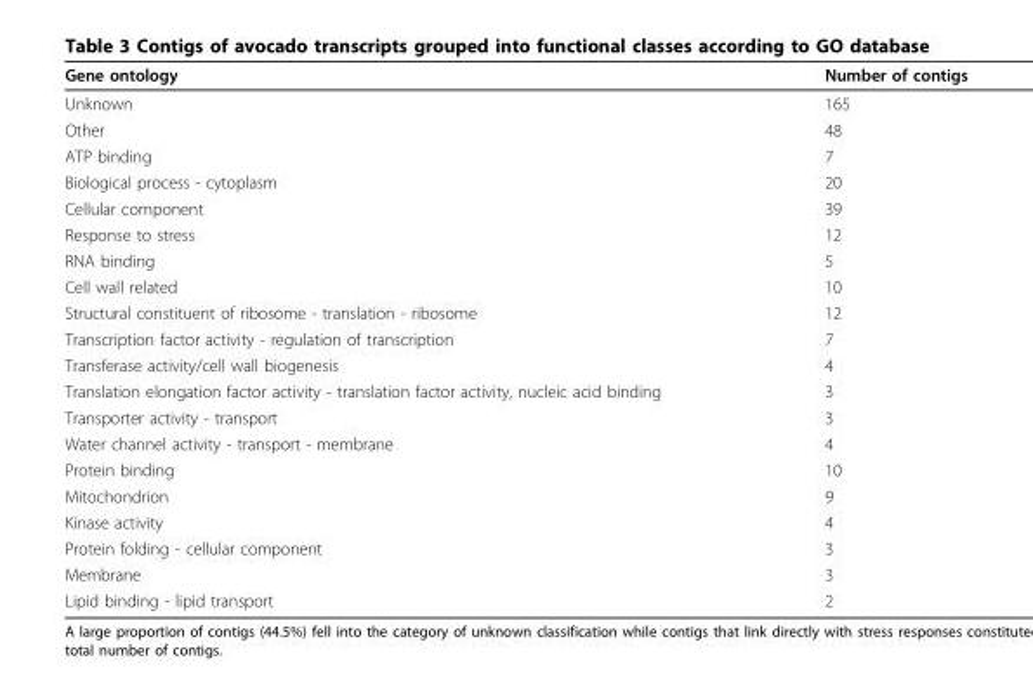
<table><thead><tr><td>Gene ontology</td><td>Number of contigs</td></tr></thead><tbody><tr><td>Unknown</td><td>165</td></tr><tr><td>Other</td><td>48</td></tr><tr><td>ATP binding</td><td>7</td></tr><tr><td>Biological process - cytoplasm</td><td>20</td></tr><tr><td>Cellular component</td><td>39</td></tr><tr><td>Response to stress</td><td>12</td></tr><tr><td>RNA binding</td><td>5</td></tr><tr><td>Cell wall related</td><td>10</td></tr><tr><td>Structural constituent of ribosome - translation - ribosome</td><td>12</td></tr><tr><td>Transcription factor activity - regulation of transcription</td><td>7</td></tr><tr><td>Transferase activity/cell wall biogenesis</td><td>4</td></tr><tr><td>Translation elongation factor activity - translation factor activity, nucleic acid binding</td><td>3</td></tr><tr><td>Transporter activity - transport</td><td>3</td></tr><tr><td>Water channel activity - transport - membrane</td><td>4</td></tr><tr><td>Protein binding</td><td>10</td></tr><tr><td>Mitochondrion</td><td>9</td></tr><tr><td>Kinase activity</td><td>4</td></tr><tr><td>Protein folding - cellular component</td><td>3</td></tr><tr><td>Membrane</td><td>3</td></tr><tr><td>Lipid binding - lipid transport</td><td>2</td></tr></tbody></table>